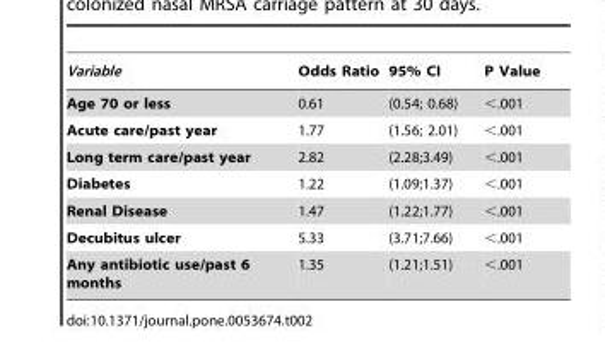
<table><thead><tr><td>Variable</td><td>Odds Ratio</td><td>95% CI</td><td>P Value</td></tr></thead><tbody><tr><td>Age 70 or less</td><td>0.61</td><td>(0.54; 0.68)</td><td>&lt;.001</td></tr><tr><td>Acute care/past year</td><td>1.77</td><td>(1.56; 2.01)</td><td>&lt;.001</td></tr><tr><td>Long term care/past year</td><td>2.82</td><td>(2.28;3.49)</td><td>&lt;.001</td></tr><tr><td>Diabetes</td><td>1.22</td><td>(1.09;1.37)</td><td>&lt;.001</td></tr><tr><td>Renal Disease</td><td>1.47</td><td>(1.22;1.77)</td><td>&lt;.001</td></tr><tr><td>Decubitus ulcer</td><td>5.33</td><td>(3.71;7.66)</td><td>&lt;.001</td></tr><tr><td>Any antibiotic use/past 6 months</td><td>1.35</td><td>(1.21;1.51)</td><td>&lt;.001</td></tr></tbody></table>